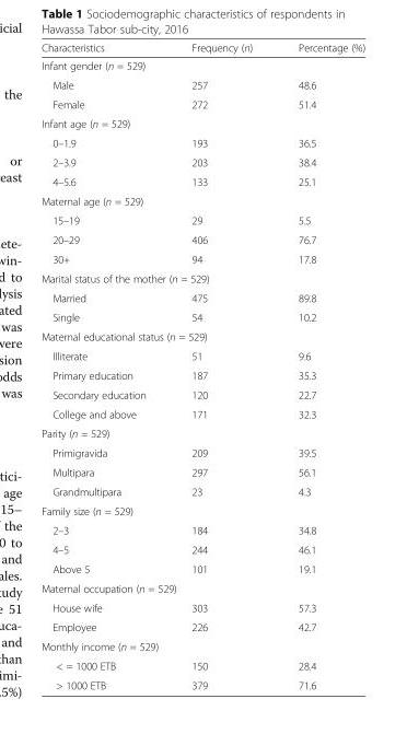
<table><thead><tr><td>Characteristics</td><td>Frequency (n)</td><td>Percentage (%)</td></tr></thead><tbody><tr><td colspan="3">Infant gender (n = 529)</td></tr><tr><td>Male</td><td>257</td><td>48.6</td></tr><tr><td>Female</td><td>272</td><td>51.4</td></tr><tr><td colspan="3">Infant age (n = 529)</td></tr><tr><td>0–1.9</td><td>193</td><td>36.5</td></tr><tr><td>2–3.9</td><td>203</td><td>38.4</td></tr><tr><td>4–5.6</td><td>133</td><td>25.1</td></tr><tr><td colspan="3">Maternal age (n = 529)</td></tr><tr><td>15–19</td><td>29</td><td>5.5</td></tr><tr><td>20–29</td><td>406</td><td>76.7</td></tr><tr><td>30+</td><td>94</td><td>17.8</td></tr><tr><td colspan="3">Marital status of the mother (n = 529)</td></tr><tr><td>Married</td><td>475</td><td>89.8</td></tr><tr><td>Single</td><td>54</td><td>10.2</td></tr><tr><td colspan="3">Maternal educational status (n = 529)</td></tr><tr><td>Illiterate</td><td>51</td><td>9.6</td></tr><tr><td>Primary education</td><td>187</td><td>35.3</td></tr><tr><td>Secondary education</td><td>120</td><td>22.7</td></tr><tr><td>College and above</td><td>171</td><td>32.3</td></tr><tr><td colspan="3">Parity (n = 529)</td></tr><tr><td>Primigravida</td><td>209</td><td>39.5</td></tr><tr><td>Multipara</td><td>297</td><td>56.1</td></tr><tr><td>Grandmultipara</td><td>23</td><td>4.3</td></tr><tr><td colspan="3">Family size (n = 529)</td></tr><tr><td>2–3</td><td>184</td><td>34.8</td></tr><tr><td>4–5</td><td>244</td><td>46.1</td></tr><tr><td>Above 5</td><td>101</td><td>19.1</td></tr><tr><td colspan="3">Maternal occupation (n = 529)</td></tr><tr><td>House wife</td><td>303</td><td>57.3</td></tr><tr><td>Employee</td><td>226</td><td>42.7</td></tr><tr><td colspan="3">Monthly income (n = 529)</td></tr><tr><td>&lt; = 1000 ETB</td><td>150</td><td>28.4</td></tr><tr><td>&gt; 1000 ETB</td><td>379</td><td>71.6</td></tr></tbody></table>